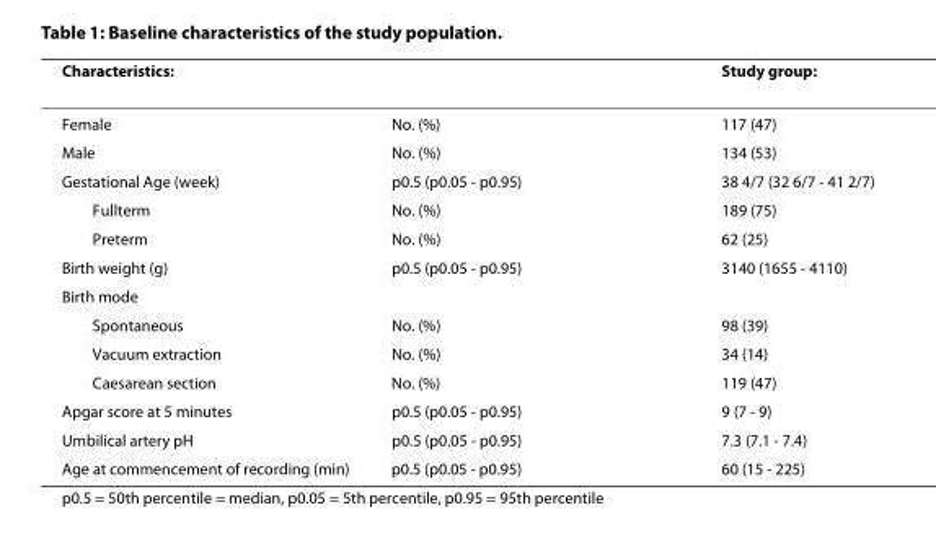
<table><thead><tr><td>Characteristics:</td><td></td><td>Study group:</td></tr></thead><tbody><tr><td>Female</td><td>No. (%)</td><td>117 (47)</td></tr><tr><td>Male</td><td>No. (%)</td><td>134 (53)</td></tr><tr><td>Gestational Age (week)</td><td>p0.5 (p0.05 - p0.95)</td><td>38 4/7 (32 6/7 - 41 2/7)</td></tr><tr><td>Fullterm</td><td>No. (%)</td><td>189 (75)</td></tr><tr><td>Preterm</td><td>No. (%)</td><td>62 (25)</td></tr><tr><td>Birth weight (g)</td><td>p0.5 (p0.05 - p0.95)</td><td>3140 (1655 - 4110)</td></tr><tr><td colspan="3">Birth mode</td></tr><tr><td>Spontaneous</td><td>No. (%)</td><td>98 (39)</td></tr><tr><td>Vacuum extraction</td><td>No. (%)</td><td>34 (14)</td></tr><tr><td>Caesarean section</td><td>No. (%)</td><td>119 (47)</td></tr><tr><td>Apgar score at 5 minutes</td><td>p0.5 (p0.05 - p0.95)</td><td>9 (7 - 9)</td></tr><tr><td>Umbilical artery pH</td><td>p0.5 (p0.05 - p0.95)</td><td>7.3 (7.1 - 7.4)</td></tr><tr><td>Age at commencement of recording (min)</td><td>p0.5 (p0.05 - p0.95)</td><td>60 (15 - 225)</td></tr></tbody></table>